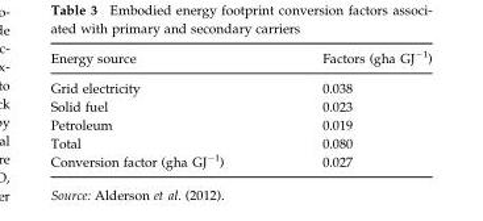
<table><thead><tr><td>Energy source</td><td>Factors (gha GJ<sup>−1</sup>)</td></tr></thead><tbody><tr><td>Grid electricity</td><td>0.038</td></tr><tr><td>Solid fuel</td><td>0.023</td></tr><tr><td>Petroleum</td><td>0.019</td></tr><tr><td>Total</td><td>0.080</td></tr><tr><td>Conversion factor (gha GJ<sup>−1</sup>)</td><td>0.027</td></tr></tbody></table>